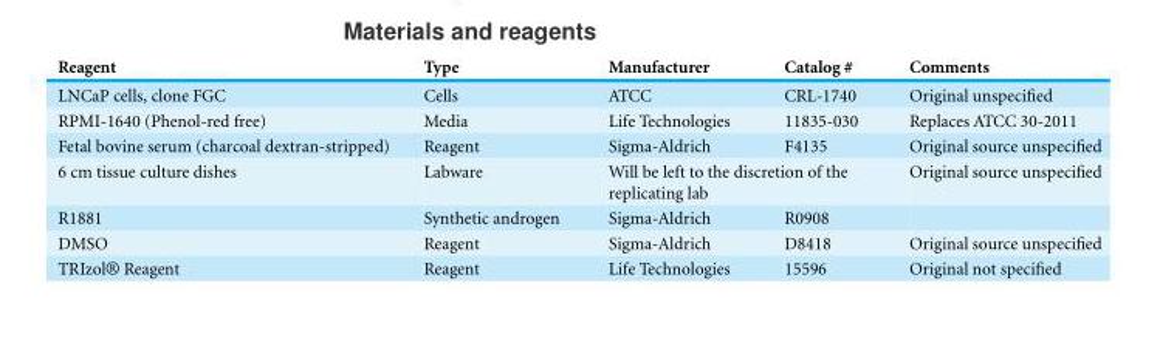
<table><thead><tr><td>Reagent</td><td>Type</td><td>Manufacturer</td><td>Catalog #</td><td>Comments</td></tr></thead><tbody><tr><td>LNCaP cells, clone FGC</td><td>Cells</td><td>ATCC</td><td>CRL-1740</td><td>Original unspecified</td></tr><tr><td>RPMI-1640 (Phenol-red free)</td><td>Media</td><td>Life Technologies</td><td>11835-030</td><td>Replaces ATCC 30-2011</td></tr><tr><td>Fetal bovine serum (charcoal dextran-stripped)</td><td>Reagent</td><td>Sigma-Aldrich</td><td>F4135</td><td>Original source unspecified</td></tr><tr><td>6 cm tissue culture dishes</td><td>Labware</td><td colspan="2">Will be left to the discretion of the replicating lab</td><td>Original source unspecified</td></tr><tr><td>R1881</td><td>Synthetic androgen</td><td>Sigma-Aldrich</td><td>R0908</td><td></td></tr><tr><td>DMSO</td><td>Reagent</td><td>Sigma-Aldrich</td><td>D8418</td><td>Original source unspecified</td></tr><tr><td>TRIzol® Reagent</td><td>Reagent</td><td>Life Technologies</td><td>15596</td><td>Original not specified</td></tr></tbody></table>